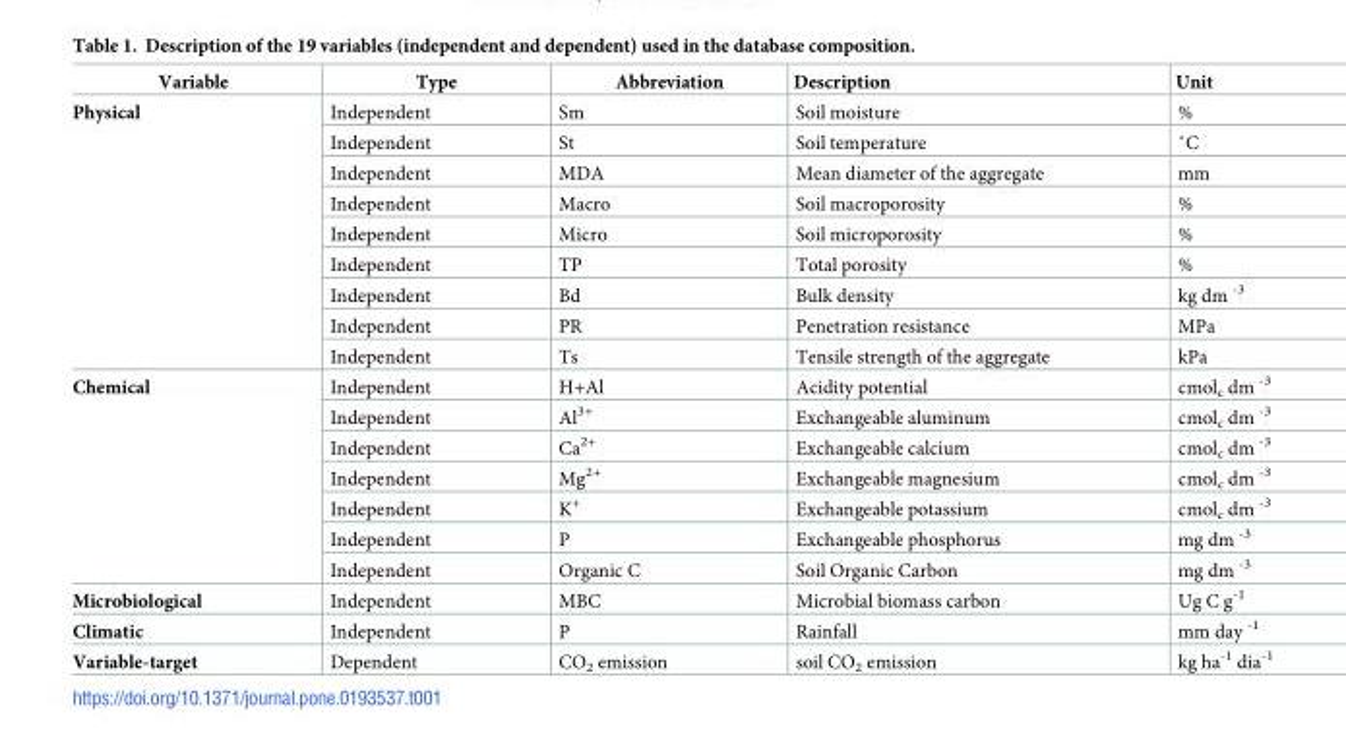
<table><thead><tr><td>Variable</td><td>Type</td><td>Abbreviation</td><td>Description</td><td>Unit</td></tr></thead><tbody><tr><td rowspan="9">Physical</td><td>Independent</td><td>Sm</td><td>Soil moisture</td><td>%</td></tr><tr><td>Independent</td><td>St</td><td>Soil temperature</td><td>˚C</td></tr><tr><td>Independent</td><td>MDA</td><td>Mean diameter of the aggregate</td><td>mm</td></tr><tr><td>Independent</td><td>Macro</td><td>Soil macroporosity</td><td>%</td></tr><tr><td>Independent</td><td>Micro</td><td>Soil microporosity</td><td>%</td></tr><tr><td>Independent</td><td>TP</td><td>Total porosity</td><td>%</td></tr><tr><td>Independent</td><td>Bd</td><td>Bulk density</td><td>kg dm <sup>-3</sup></td></tr><tr><td>Independent</td><td>PR</td><td>Penetration resistance</td><td>MPa</td></tr><tr><td>Independent</td><td>Ts</td><td>Tensile strength of the aggregate</td><td>kPa</td></tr><tr><td rowspan="7">Chemical</td><td>Independent</td><td>H+Al</td><td>Acidity potential</td><td>cmol<sub>c</sub> dm <sup>-3</sup></td></tr><tr><td>Independent</td><td>Al<sup>3+</sup></td><td>Exchangeable aluminum</td><td>cmol<sub>c</sub> dm <sup>-3</sup></td></tr><tr><td>Independent</td><td>Ca<sup>2+</sup></td><td>Exchangeable calcium</td><td>cmol<sub>c</sub> dm <sup>-3</sup></td></tr><tr><td>Independent</td><td>Mg<sup>2+</sup></td><td>Exchangeable magnesium</td><td>cmol<sub>c</sub> dm <sup>-3</sup></td></tr><tr><td>Independent</td><td>K<sup>+</sup></td><td>Exchangeable potassium</td><td>cmol<sub>c</sub> dm <sup>-3</sup></td></tr><tr><td>Independent</td><td>P</td><td>Exchangeable phosphorus</td><td>mg dm <sup>-3</sup></td></tr><tr><td>Independent</td><td>Organic C</td><td>Soil Organic Carbon</td><td>mg dm <sup>-3</sup></td></tr><tr><td>Microbiological</td><td>Independent</td><td>MBC</td><td>Microbial biomass carbon</td><td>Ug C g<sup>-1</sup></td></tr><tr><td>Climatic</td><td>Independent</td><td>P</td><td>Rainfall</td><td>mm day <sup>-1</sup></td></tr><tr><td>Variable-target</td><td>Dependent</td><td>CO<sub>2</sub> emission</td><td>soil CO<sub>2</sub> emission</td><td>kg ha<sup>-1</sup> dia<sup>-1</sup></td></tr></tbody></table>